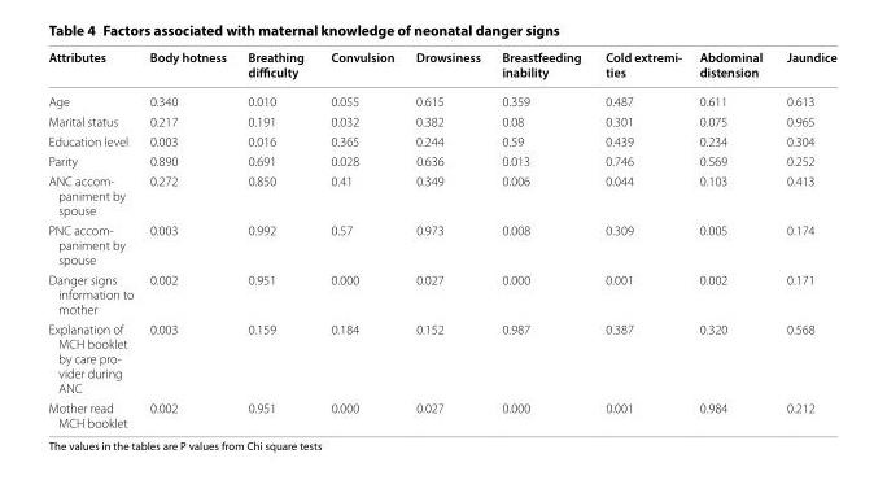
<table><thead><tr><td>Attributes</td><td>Body hotness</td><td>Breathing difficulty</td><td>Convulsion</td><td>Drowsiness</td><td>Breastfeeding inability</td><td>Cold extremi- ties</td><td>Abdominal distension</td><td>Jaundice</td></tr></thead><tbody><tr><td>Age</td><td>0.340</td><td>0.010</td><td>0.055</td><td>0.615</td><td>0.359</td><td>0.487</td><td>0.611</td><td>0.613</td></tr><tr><td>Marital status</td><td>0.217</td><td>0.191</td><td>0.032</td><td>0.382</td><td>0.08</td><td>0.301</td><td>0.075</td><td>0.965</td></tr><tr><td>Education level</td><td>0.003</td><td>0.016</td><td>0.365</td><td>0.244</td><td>0.59</td><td>0.439</td><td>0.234</td><td>0.304</td></tr><tr><td>Parity</td><td>0.890</td><td>0.691</td><td>0.028</td><td>0.636</td><td>0.013</td><td>0.746</td><td>0.569</td><td>0.252</td></tr><tr><td>ANC accom- paniment by spouse</td><td>0.272</td><td>0.850</td><td>0.41</td><td>0.349</td><td>0.006</td><td>0.044</td><td>0.103</td><td>0.413</td></tr><tr><td>PNC accom- paniment by spouse</td><td>0.003</td><td>0.992</td><td>0.57</td><td>0.973</td><td>0.008</td><td>0.309</td><td>0.005</td><td>0.174</td></tr><tr><td>Danger signs information to mother</td><td>0.002</td><td>0.951</td><td>0.000</td><td>0.027</td><td>0.000</td><td>0.001</td><td>0.002</td><td>0.171</td></tr><tr><td>Explanation of MCH booklet by care pro- vider during ANC</td><td>0.003</td><td>0.159</td><td>0.184</td><td>0.152</td><td>0.987</td><td>0.387</td><td>0.320</td><td>0.568</td></tr><tr><td>Mother read MCH booklet</td><td>0.002</td><td>0.951</td><td>0.000</td><td>0.027</td><td>0.000</td><td>0.001</td><td>0.984</td><td>0.212</td></tr></tbody></table>